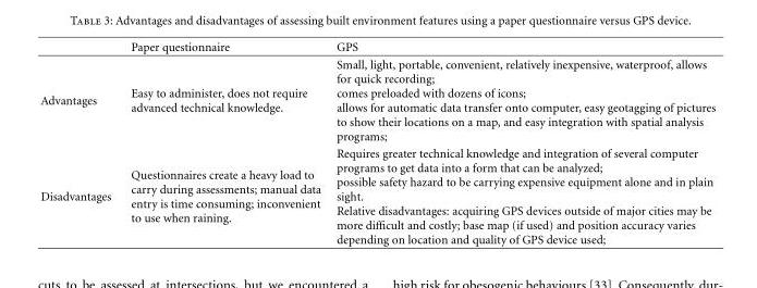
<table><thead><tr><td></td><td>Paper questionnaire</td><td>GPS</td></tr></thead><tbody><tr><td>Advantages</td><td>Easy to administer, does not require advanced technical knowledge.</td><td>Small, light, portable, convenient, relatively inexpensive, waterproof, allows for quick recording; comes preloaded with dozens of icons; allows for automatic data transfer onto computer, easy geotagging of pictures to show their locations on a map, and easy integration with spatial analysis programs;</td></tr><tr><td>Disadvantages</td><td>Questionnaires create a heavy load to carry during assessments; manual data entry is time consuming; inconvenient to use when raining.</td><td>Requires greater technical knowledge and integration of several computer programs to get data into a form that can be analyzed; possible safety hazard to be carrying expensive equipment alone and in plain sight. Relative disadvantages: acquiring GPS devices outside of major cities may be more difficult and costly; base map (if used) and position accuracy varies depending on location and quality of GPS device used;</td></tr></tbody></table>